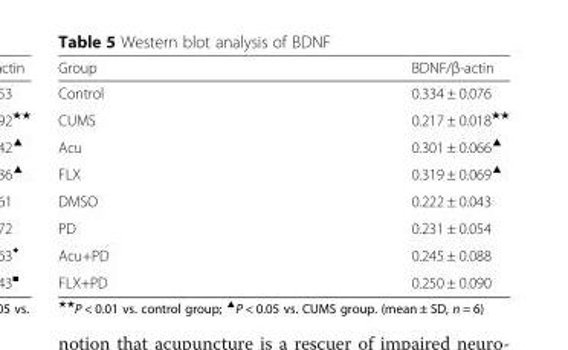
<table><thead><tr><td>Group</td><td>BDNF/β-actin</td></tr></thead><tbody><tr><td>Control</td><td>0.334 ± 0.076</td></tr><tr><td>CUMS</td><td>0.217 ± 0.018<sup>★★</sup></td></tr><tr><td>Acu</td><td>0.301 ± 0.066<sup>▲</sup></td></tr><tr><td>FLX</td><td>0.319 ± 0.069<sup>▲</sup></td></tr><tr><td>DMSO</td><td>0.222 ± 0.043</td></tr><tr><td>PD</td><td>0.231 ± 0.054</td></tr><tr><td>Acu+PD</td><td>0.245 ± 0.088</td></tr><tr><td>FLX+PD</td><td>0.250 ± 0.090</td></tr></tbody></table>